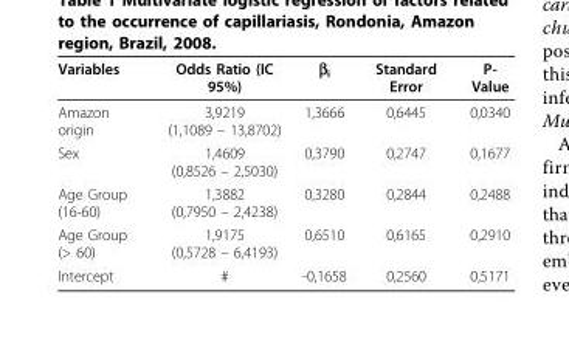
<table><thead><tr><td>Variables</td><td>Odds Ratio (IC 95%)</td><td>β<sub>i</sub></td><td>Standard Error</td><td>P- Value</td></tr></thead><tbody><tr><td>Amazon origin</td><td>3,9219 (1,1089 – 13,8702)</td><td>1,3666</td><td>0,6445</td><td>0,0340</td></tr><tr><td>Sex</td><td>1,4609 (0,8526 – 2,5030)</td><td>0,3790</td><td>0,2747</td><td>0,1677</td></tr><tr><td>Age Group (16-60)</td><td>1,3882 (0,7950 – 2,4238)</td><td>0,3280</td><td>0,2844</td><td>0,2488</td></tr><tr><td>Age Group (&gt; 60)</td><td>1,9175 (0,5728 – 6,4193)</td><td>0,6510</td><td>0,6165</td><td>0,2910</td></tr><tr><td>Intercept</td><td>#</td><td>-0,1658</td><td>0,2560</td><td>0,5171</td></tr></tbody></table>